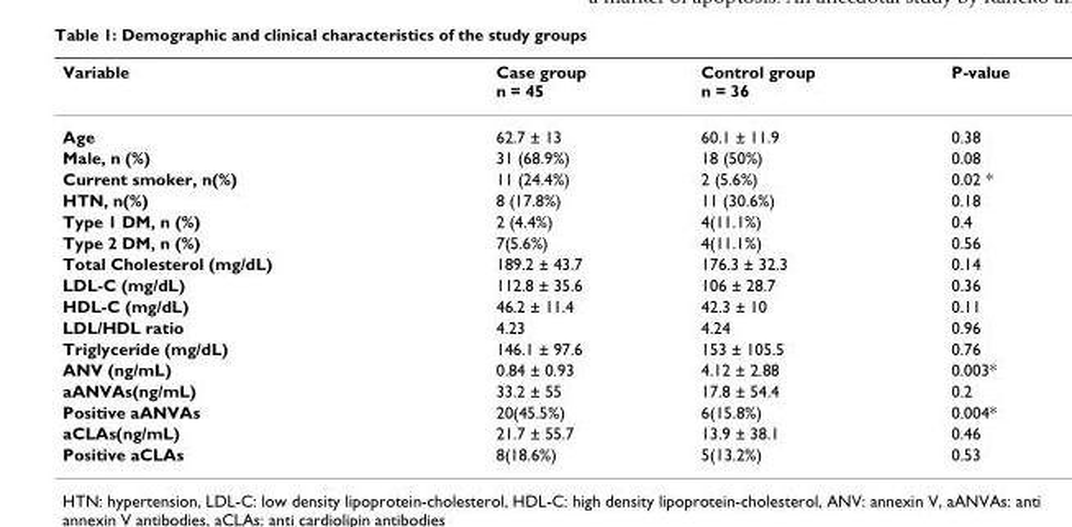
<table><thead><tr><td>Variable</td><td>Case group n = 45</td><td>Control group n = 36</td><td>P-value</td></tr></thead><tbody><tr><td>Age</td><td>62.7 ± 13</td><td>60.1 ± 11.9</td><td>0.38</td></tr><tr><td>Male, n (%)</td><td>31 (68.9%)</td><td>18 (50%)</td><td>0.08</td></tr><tr><td>Current smoker, n(%)</td><td>11 (24.4%)</td><td>2 (5.6%)</td><td>0.02 *</td></tr><tr><td>HTN, n(%)</td><td>8 (17.8%)</td><td>11 (30.6%)</td><td>0.18</td></tr><tr><td>Type 1 DM, n (%)</td><td>2 (4.4%)</td><td>4(11.1%)</td><td>0.4</td></tr><tr><td>Type 2 DM, n (%)</td><td>7(5.6%)</td><td>4(11.1%)</td><td>0.56</td></tr><tr><td>Total Cholesterol (mg/dL)</td><td>189.2 ± 43.7</td><td>176.3 ± 32.3</td><td>0.14</td></tr><tr><td>LDL-C (mg/dL)</td><td>112.8 ± 35.6</td><td>106 ± 28.7</td><td>0.36</td></tr><tr><td>HDL-C (mg/dL)</td><td>46.2 ± 11.4</td><td>42.3 ± 10</td><td>0.11</td></tr><tr><td>LDL/HDL ratio</td><td>4.23</td><td>4.24</td><td>0.96</td></tr><tr><td>Triglyceride (mg/dL)</td><td>146.1 ± 97.6</td><td>153 ± 105.5</td><td>0.76</td></tr><tr><td>ANV (ng/mL)</td><td>0.84 ± 0.93</td><td>4.12 ± 2.88</td><td>0.003*</td></tr><tr><td>aANVAs(ng/mL)</td><td>33.2 ± 55</td><td>17.8 ± 54.4</td><td>0.2</td></tr><tr><td>Positive aANVAs</td><td>20(45.5%)</td><td>6(15.8%)</td><td>0.004*</td></tr><tr><td>aCLAs(ng/mL)</td><td>21.7 ± 55.7</td><td>13.9 ± 38.1</td><td>0.46</td></tr><tr><td>Positive aCLAs</td><td>8(18.6%)</td><td>5(13.2%)</td><td>0.53</td></tr></tbody></table>